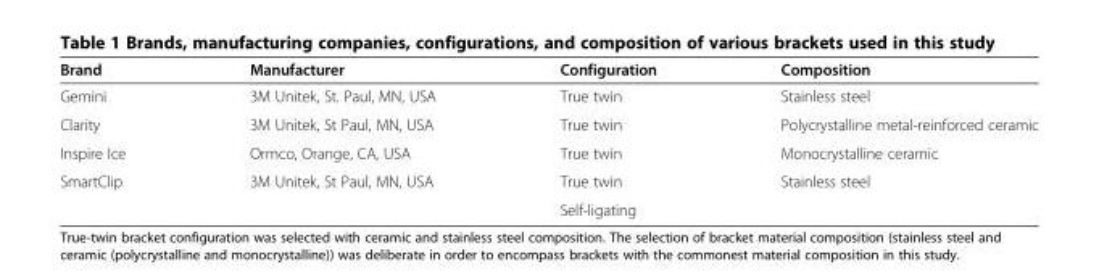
<table><thead><tr><td>Brand</td><td>Manufacturer</td><td>Configuration</td><td>Composition</td></tr></thead><tbody><tr><td>Gemini</td><td>3M Unitek, St. Paul, MN, USA</td><td>True twin</td><td>Stainless steel</td></tr><tr><td>Clarity</td><td>3M Unitek, St Paul, MN, USA</td><td>True twin</td><td>Polycrystalline metal-reinforced ceramic</td></tr><tr><td>Inspire Ice</td><td>Ormco, Orange, CA, USA</td><td>True twin</td><td>Monocrystalline ceramic</td></tr><tr><td rowspan="2">SmartClip</td><td rowspan="2">3M Unitek, St Paul, MN, USA</td><td>True twin</td><td rowspan="2">Stainless steel</td></tr><tr><td>Self-ligating</td></tr></tbody></table>